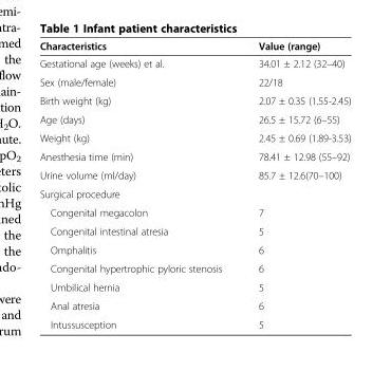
<table><thead><tr><td>Characteristics</td><td>Value (range)</td></tr></thead><tbody><tr><td>Gestational age (weeks) et al.</td><td>34.01 ± 2.12 (32–40)</td></tr><tr><td>Sex (male/female)</td><td>22/18</td></tr><tr><td>Birth weight (kg)</td><td>2.07 ± 0.35 (1.55-2.45)</td></tr><tr><td>Age (days)</td><td>26.5 ± 15.72 (6–55)</td></tr><tr><td>Weight (kg)</td><td>2.45 ± 0.69 (1.89-3.53)</td></tr><tr><td>Anesthesia time (min)</td><td>78.41 ± 12.98 (55–92)</td></tr><tr><td>Urine volume (ml/day)</td><td>85.7 ± 12.6(70–100)</td></tr><tr><td colspan="2">Surgical procedure</td></tr><tr><td>Congenital megacolon</td><td>7</td></tr><tr><td>Congenital intestinal atresia</td><td>5</td></tr><tr><td>Omphalitis</td><td>6</td></tr><tr><td>Congenital hypertrophic pyloric stenosis</td><td>6</td></tr><tr><td>Umbilical hernia</td><td>5</td></tr><tr><td>Anal atresia</td><td>6</td></tr><tr><td>Intussusception</td><td>5</td></tr></tbody></table>